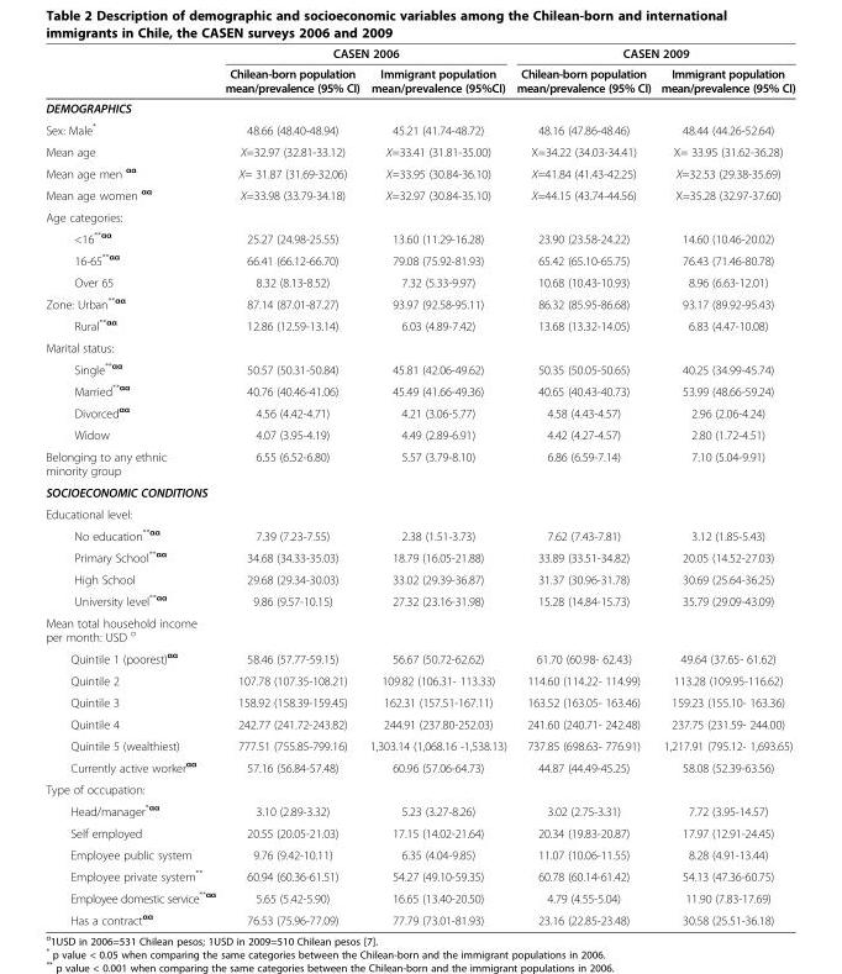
<table><thead><tr><td rowspan="2"></td><td colspan="2">CASEN 2006</td><td colspan="2">CASEN 2009</td></tr><tr><td>Chilean-born population mean/prevalence (95% CI)</td><td>Immigrant population mean/prevalence (95%CI)</td><td>Chilean-born population mean/prevalence (95% CI)</td><td>Immigrant population mean/prevalence (95% CI)</td></tr></thead><tbody><tr><td colspan="5">DEMOGRAPHICS</td></tr><tr><td>Sex: Male*</td><td>48.66 (48.40-48.94)</td><td>45.21 (41.74-48.72)</td><td>48.16 (47.86-48.46)</td><td>48.44 (44.26-52.64)</td></tr><tr><td>Mean age</td><td>X=32.97 (32.81-33.12)</td><td>X=33.41 (31.81-35.00)</td><td>X=34.22 (34.03-34.41)</td><td>X= 33.95 (31.62-36.28)</td></tr><tr><td>Mean age men <sup>αα</sup></td><td>X= 31.87 (31.69-32.06)</td><td>X=33.95 (30.84-36.10)</td><td>X=41.84 (41.43-42.25)</td><td>X=32.53 (29.38-35.69)</td></tr><tr><td>Mean age women <sup>αα</sup></td><td>X=33.98 (33.79-34.18)</td><td>X=32.97 (30.84-35.10)</td><td>X=44.15 (43.74-44.56)</td><td>X=35.28 (32.97-37.60)</td></tr><tr><td colspan="5">Age categories:</td></tr><tr><td>&lt;16<sup>**αα</sup></td><td>25.27 (24.98-25.55)</td><td>13.60 (11.29-16.28)</td><td>23.90 (23.58-24.22)</td><td>14.60 (10.46-20.02)</td></tr><tr><td>16-65<sup>**αα</sup></td><td>66.41 (66.12-66.70)</td><td>79.08 (75.92-81.93)</td><td>65.42 (65.10-65.75)</td><td>76.43 (71.46-80.78)</td></tr><tr><td>Over 65</td><td>8.32 (8.13-8.52)</td><td>7.32 (5.33-9.97)</td><td>10.68 (10.43-10.93)</td><td>8.96 (6.63-12.01)</td></tr><tr><td>Zone: Urban<sup>**αα</sup></td><td>87.14 (87.01-87.27)</td><td>93.97 (92.58-95.11)</td><td>86.32 (85.95-86.68)</td><td>93.17 (89.92-95.43)</td></tr><tr><td>Rural<sup>**αα</sup></td><td>12.86 (12.59-13.14)</td><td>6.03 (4.89-7.42)</td><td>13.68 (13.32-14.05)</td><td>6.83 (4.47-10.08)</td></tr><tr><td colspan="5">Marital status:</td></tr><tr><td>Single<sup>**αα</sup></td><td>50.57 (50.31-50.84)</td><td>45.81 (42.06-49.62)</td><td>50.35 (50.05-50.65)</td><td>40.25 (34.99-45.74)</td></tr><tr><td>Married<sup>**αα</sup></td><td>40.76 (40.46-41.06)</td><td>45.49 (41.66-49.36)</td><td>40.65 (40.43-40.73)</td><td>53.99 (48.66-59.24)</td></tr><tr><td>Divorced<sup>αα</sup></td><td>4.56 (4.42-4.71)</td><td>4.21 (3.06-5.77)</td><td>4.58 (4.43-4.57)</td><td>2.96 (2.06-4.24)</td></tr><tr><td>Widow</td><td>4.07 (3.95-4.19)</td><td>4.49 (2.89-6.91)</td><td>4.42 (4.27-4.57)</td><td>2.80 (1.72-4.51)</td></tr><tr><td>Belonging to any ethnic minority group</td><td>6.55 (6.52-6.80)</td><td>5.57 (3.79-8.10)</td><td>6.86 (6.59-7.14)</td><td>7.10 (5.04-9.91)</td></tr><tr><td colspan="5">SOCIOECONOMIC CONDITIONS</td></tr><tr><td colspan="5">Educational level:</td></tr><tr><td>No education<sup>**αα</sup></td><td>7.39 (7.23-7.55)</td><td>2.38 (1.51-3.73)</td><td>7.62 (7.43-7.81)</td><td>3.12 (1.85-5.43)</td></tr><tr><td>Primary School<sup>**αα</sup></td><td>34.68 (34.33-35.03)</td><td>18.79 (16.05-21.88)</td><td>33.89 (33.51-34.82)</td><td>20.05 (14.52-27.03)</td></tr><tr><td>High School</td><td>29.68 (29.34-30.03)</td><td>33.02 (29.39-36.87)</td><td>31.37 (30.96-31.78)</td><td>30.69 (25.64-36.25)</td></tr><tr><td>University level<sup>**αα</sup></td><td>9.86 (9.57-10.15)</td><td>27.32 (23.16-31.98)</td><td>15.28 (14.84-15.73)</td><td>35.79 (29.09-43.09)</td></tr><tr><td colspan="5">Mean total household income per month: USD <sup>σ</sup></td></tr><tr><td>Quintile 1 (poorest)<sup>αα</sup></td><td>58.46 (57.77-59.15)</td><td>56.67 (50.72-62.62)</td><td>61.70 (60.98- 62.43)</td><td>49.64 (37.65- 61.62)</td></tr><tr><td>Quintile 2</td><td>107.78 (107.35-108.21)</td><td>109.82 (106.31- 113.33)</td><td>114.60 (114.22- 114.99)</td><td>113.28 (109.95-116.62)</td></tr><tr><td>Quintile 3</td><td>158.92 (158.39-159.45)</td><td>162.31 (157.51-167.11)</td><td>163.52 (163.05- 163.46)</td><td>159.23 (155.10- 163.36)</td></tr><tr><td>Quintile 4</td><td>242.77 (241.72-243.82)</td><td>244.91 (237.80-252.03)</td><td>241.60 (240.71- 242.48)</td><td>237.75 (231.59- 244.00)</td></tr><tr><td>Quintile 5 (wealthiest)</td><td>777.51 (755.85-799.16)</td><td>1,303.14 (1,068.16 -1,538.13)</td><td>737.85 (698.63- 776.91)</td><td>1,217.91 (795.12- 1,693.65)</td></tr><tr><td>Currently active worker<sup>αα</sup></td><td>57.16 (56.84-57.48)</td><td>60.96 (57.06-64.73)</td><td>44.87 (44.49-45.25)</td><td>58.08 (52.39-63.56)</td></tr><tr><td colspan="5">Type of occupation:</td></tr><tr><td>Head/manager<sup>*αα</sup></td><td>3.10 (2.89-3.32)</td><td>5.23 (3.27-8.26)</td><td>3.02 (2.75-3.31)</td><td>7.72 (3.95-14.57)</td></tr><tr><td>Self employed</td><td>20.55 (20.05-21.03)</td><td>17.15 (14.02-21.64)</td><td>20.34 (19.83-20.87)</td><td>17.97 (12.91-24.45)</td></tr><tr><td>Employee public system</td><td>9.76 (9.42-10.11)</td><td>6.35 (4.04-9.85)</td><td>11.07 (10.06-11.55)</td><td>8.28 (4.91-13.44)</td></tr><tr><td>Employee private system**</td><td>60.94 (60.36-61.51)</td><td>54.27 (49.10-59.35)</td><td>60.78 (60.14-61.42)</td><td>54.13 (47.36-60.75)</td></tr><tr><td>Employee domestic service<sup>**αα</sup></td><td>5.65 (5.42-5.90)</td><td>16.65 (13.40-20.50)</td><td>4.79 (4.55-5.04)</td><td>11.90 (7.83-17.69)</td></tr><tr><td>Has a contract<sup>αα</sup></td><td>76.53 (75.96-77.09)</td><td>77.79 (73.01-81.93)</td><td>23.16 (22.85-23.48)</td><td>30.58 (25.51-36.18)</td></tr></tbody></table>